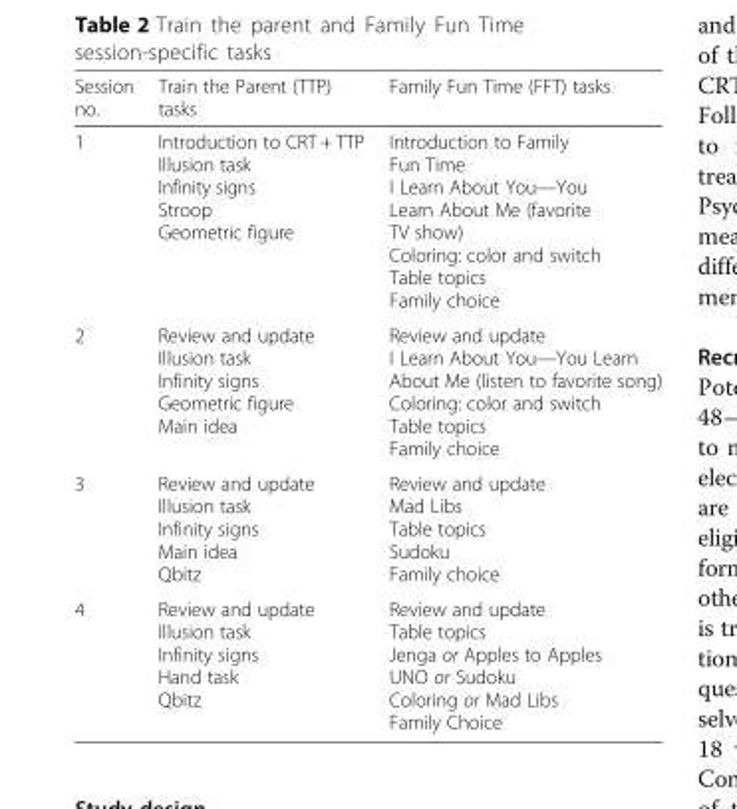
<table><thead><tr><td>Session no.</td><td>Train the Parent (TTP) tasks</td><td>Family Fun Time (FFT) tasks</td></tr></thead><tbody><tr><td>1</td><td>Introduction to CRT + TTP Illusion task Infinity signs Stroop Geometric figure</td><td>Introduction to Family Fun Time I Learn About You—You Learn About Me (favorite TV show) Coloring: color and switch Table topics Family choice</td></tr><tr><td>2</td><td>Review and update Illusion task Infinity signs Geometric figure Main idea</td><td>Review and update I Learn About You—You Learn About Me (listen to favorite song) Coloring: color and switch Table topics Family choice</td></tr><tr><td>3</td><td>Review and update Illusion task Infinity signs Main idea Qbitz</td><td>Review and update Mad Libs Table topics Sudoku Family choice</td></tr><tr><td>4</td><td>Review and update Illusion task Infinity signs Hand task Qbitz</td><td>Review and update Table topics Jenga or Apples to Apples UNO or Sudoku Coloring or Mad Libs Family Choice</td></tr></tbody></table>